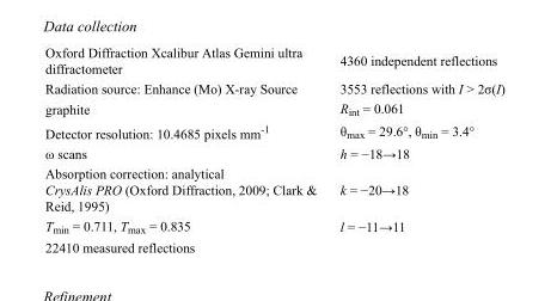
<table><tbody><tr><td>Oxford Diffraction Xcalibur Atlas Gemini ultra diffractometer</td><td>4360 independent reflections</td></tr><tr><td>Radiation source: Enhance (Mo) X-ray Source</td><td>3553 reflections with I &gt; 2σ(I)</td></tr><tr><td>graphite</td><td>R<sub>int</sub> = 0.061</td></tr><tr><td>Detector resolution: 10.4685 pixels mm<sup>-1</sup></td><td>θ<sub>max</sub> = 29.6°, θ<sub>min</sub> = 3.4°</td></tr><tr><td>ω scans</td><td>h = −18→18</td></tr><tr><td>Absorption correction: analytical CrysAlis PRO (Oxford Diffraction, 2009; Clark &amp; Reid, 1995)</td><td>k = −20→18</td></tr><tr><td>T<sub>min</sub> = 0.711, T<sub>max</sub> = 0.835</td><td>l = −11→11</td></tr><tr><td>22410 measured reflections</td><td></td></tr></tbody></table>